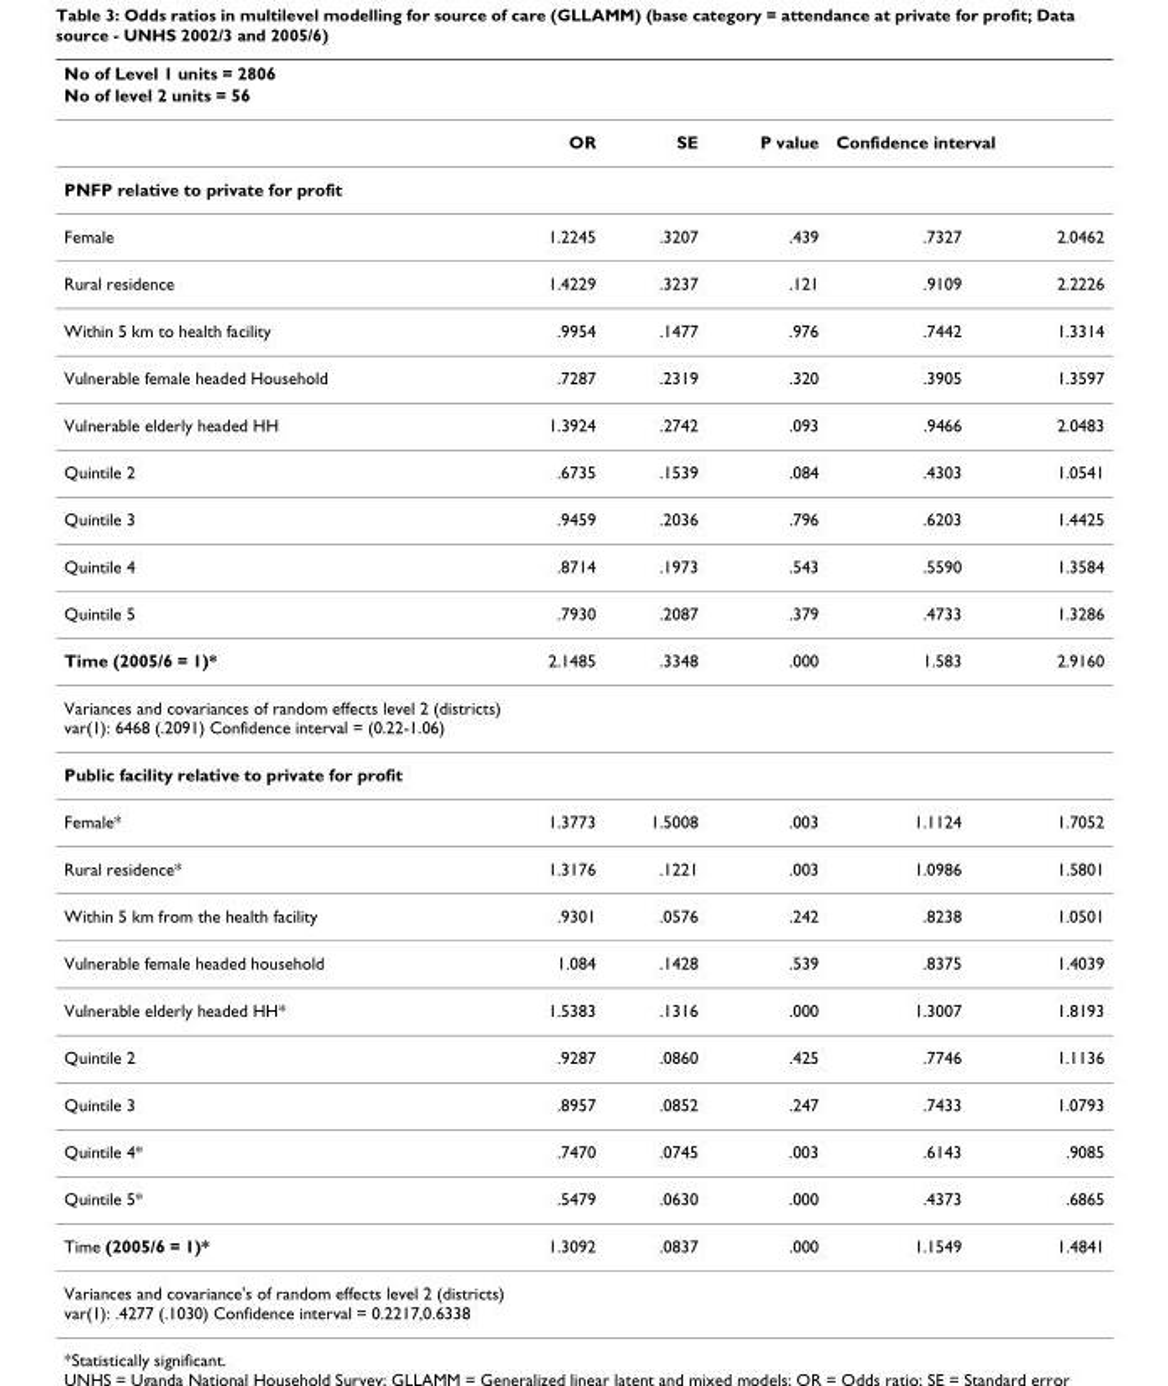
<table><thead><tr><td rowspan="2">No of Level 1 units = 2806 No of level 2 units = 56</td><td rowspan="2"></td><td rowspan="2"></td><td rowspan="2"></td><td rowspan="2"></td><td rowspan="2"></td></tr><tr></tr></thead><tbody><tr><td></td><td>OR</td><td>SE</td><td>P value</td><td colspan="2">Confidence interval</td></tr><tr><td colspan="6">PNFP relative to private for profit</td></tr><tr><td>Female</td><td>1.2245</td><td>.3207</td><td>.439</td><td>.7327</td><td>2.0462</td></tr><tr><td>Rural residence</td><td>1.4229</td><td>.3237</td><td>.121</td><td>.9109</td><td>2.2226</td></tr><tr><td>Within 5 km to health facility</td><td>.9954</td><td>.1477</td><td>.976</td><td>.7442</td><td>1.3314</td></tr><tr><td>Vulnerable female headed Household</td><td>.7287</td><td>.2319</td><td>.320</td><td>.3905</td><td>1.3597</td></tr><tr><td>Vulnerable elderly headed HH</td><td>1.3924</td><td>.2742</td><td>.093</td><td>.9466</td><td>2.0483</td></tr><tr><td>Quintile 2</td><td>.6735</td><td>.1539</td><td>.084</td><td>.4303</td><td>1.0541</td></tr><tr><td>Quintile 3</td><td>.9459</td><td>.2036</td><td>.796</td><td>.6203</td><td>1.4425</td></tr><tr><td>Quintile 4</td><td>.8714</td><td>.1973</td><td>.543</td><td>.5590</td><td>1.3584</td></tr><tr><td>Quintile 5</td><td>.7930</td><td>.2087</td><td>.379</td><td>.4733</td><td>1.3286</td></tr><tr><td>Time (2005/6 = 1)*</td><td>2.1485</td><td>.3348</td><td>.000</td><td>1.583</td><td>2.9160</td></tr><tr><td colspan="6">Variances and covariances of random effects level 2 (districts) var(1): 6468 (.2091) Confidence interval = (0.22-1.06)</td></tr><tr><td colspan="6">Public facility relative to private for profit</td></tr><tr><td>Female*</td><td>1.3773</td><td>1.5008</td><td>.003</td><td>1.1124</td><td>1.7052</td></tr><tr><td>Rural residence*</td><td>1.3176</td><td>.1221</td><td>.003</td><td>1.0986</td><td>1.5801</td></tr><tr><td>Within 5 km from the health facility</td><td>.9301</td><td>.0576</td><td>.242</td><td>.8238</td><td>1.0501</td></tr><tr><td>Vulnerable female headed household</td><td>1.084</td><td>.1428</td><td>.539</td><td>.8375</td><td>1.4039</td></tr><tr><td>Vulnerable elderly headed HH*</td><td>1.5383</td><td>.1316</td><td>.000</td><td>1.3007</td><td>1.8193</td></tr><tr><td>Quintile 2</td><td>.9287</td><td>.0860</td><td>.425</td><td>.7746</td><td>1.1136</td></tr><tr><td>Quintile 3</td><td>.8957</td><td>.0852</td><td>.247</td><td>.7433</td><td>1.0793</td></tr><tr><td>Quintile 4*</td><td>.7470</td><td>.0745</td><td>.003</td><td>.6143</td><td>.9085</td></tr><tr><td>Quintile 5*</td><td>.5479</td><td>.0630</td><td>.000</td><td>.4373</td><td>.6865</td></tr><tr><td>Time (2005/6 = 1)*</td><td>1.3092</td><td>.0837</td><td>.000</td><td>1.1549</td><td>1.4841</td></tr><tr><td colspan="6">Variances and covariance&#x27;s of random effects level 2 (districts) var(1): .4277 (.1030) Confidence interval = 0.2217,0.6338</td></tr></tbody></table>